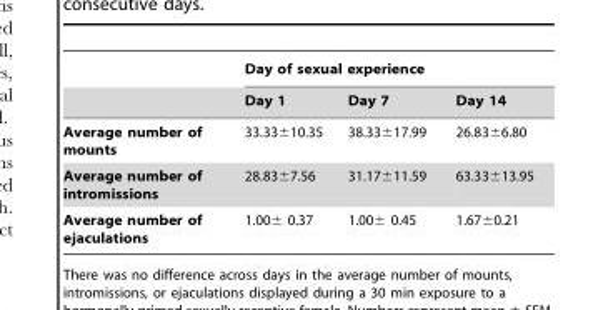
<table><thead><tr><td rowspan="2"></td><td colspan="3">Day of sexual experience</td></tr><tr><td>Day 1</td><td>Day 7</td><td>Day 14</td></tr></thead><tbody><tr><td>Average number of mounts</td><td>33.33±10.35</td><td>38.33±17.99</td><td>26.83±6.80</td></tr><tr><td>Average number of intromissions</td><td>28.83±7.56</td><td>31.17±11.59</td><td>63.33±13.95</td></tr><tr><td>Average number of ejaculations</td><td>1.00± 0.37</td><td>1.00± 0.45</td><td>1.67±0.21</td></tr></tbody></table>